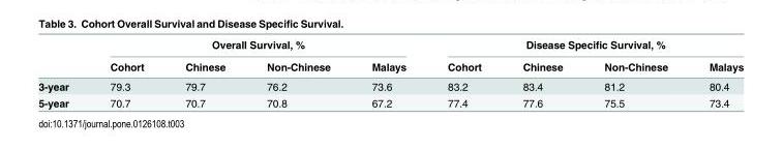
<table><thead><tr><td rowspan="2"></td><td colspan="4">Overall Survival, %</td><td colspan="4">Disease Specific Survival, %</td></tr><tr><td>Cohort</td><td>Chinese</td><td>Non-Chinese</td><td>Malays</td><td>Cohort</td><td>Chinese</td><td>Non-Chinese</td><td>Malays</td></tr></thead><tbody><tr><td>3-year</td><td>79.3</td><td>79.7</td><td>76.2</td><td>73.6</td><td>83.2</td><td>83.4</td><td>81.2</td><td>80.4</td></tr><tr><td>5-year</td><td>70.7</td><td>70.7</td><td>70.8</td><td>67.2</td><td>77.4</td><td>77.6</td><td>75.5</td><td>73.4</td></tr></tbody></table>